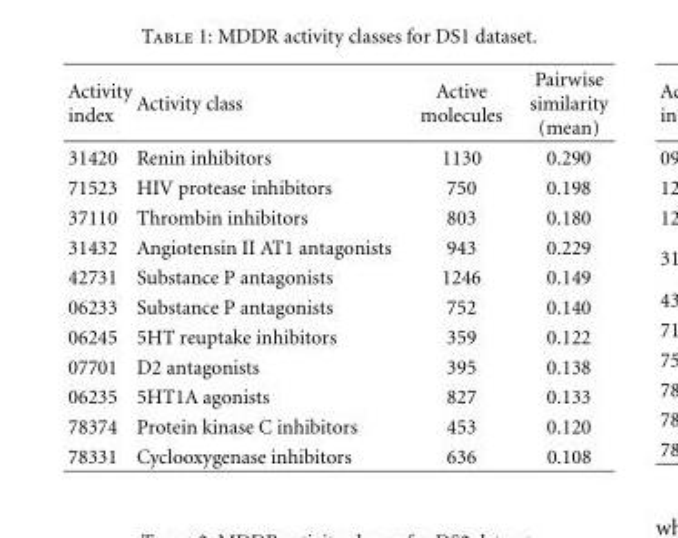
<table><thead><tr><td>Activity index</td><td>Activity class</td><td>Active molecules</td><td>Pairwise similarity (mean)</td></tr></thead><tbody><tr><td>31420</td><td>Renin inhibitors</td><td>1130</td><td>0.290</td></tr><tr><td>71523</td><td>HIV protease inhibitors</td><td>750</td><td>0.198</td></tr><tr><td>37110</td><td>Thrombin inhibitors</td><td>803</td><td>0.180</td></tr><tr><td>31432</td><td>Angiotensin II AT1 antagonists</td><td>943</td><td>0.229</td></tr><tr><td>42731</td><td>Substance P antagonists</td><td>1246</td><td>0.149</td></tr><tr><td>06233</td><td>Substance P antagonists</td><td>752</td><td>0.140</td></tr><tr><td>06245</td><td>5HT reuptake inhibitors</td><td>359</td><td>0.122</td></tr><tr><td>07701</td><td>D2 antagonists</td><td>395</td><td>0.138</td></tr><tr><td>06235</td><td>5HT1A agonists</td><td>827</td><td>0.133</td></tr><tr><td>78374</td><td>Protein kinase C inhibitors</td><td>453</td><td>0.120</td></tr><tr><td>78331</td><td>Cyclooxygenase inhibitors</td><td>636</td><td>0.108</td></tr></tbody></table>